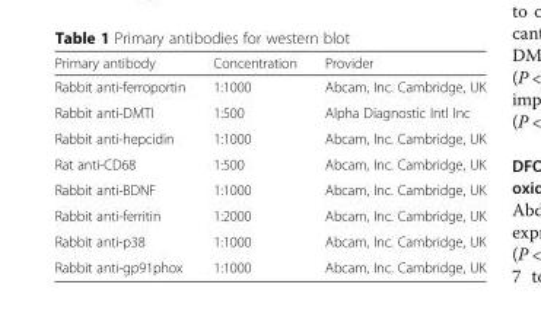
<table><thead><tr><td>Primary antibody</td><td>Concentration</td><td>Provider</td></tr></thead><tbody><tr><td>Rabbit anti-ferroportin</td><td>1:1000</td><td>Abcam, Inc. Cambridge, UK</td></tr><tr><td>Rabbit anti-DMTI</td><td>1:500</td><td>Alpha Diagnostic Intl Inc</td></tr><tr><td>Rabbit anti-hepcidin</td><td>1:1000</td><td>Abcam, Inc. Cambridge, UK</td></tr><tr><td>Rat anti-CD68</td><td>1:500</td><td>Abcam, Inc. Cambridge, UK</td></tr><tr><td>Rabbit anti-BDNF</td><td>1:1000</td><td>Abcam, Inc. Cambridge, UK</td></tr><tr><td>Rabbit anti-ferritin</td><td>1:2000</td><td>Abcam, Inc. Cambridge, UK</td></tr><tr><td>Rabbit anti-p38</td><td>1:1000</td><td>Abcam, Inc. Cambridge, UK</td></tr><tr><td>Rabbit anti-gp91phox</td><td>1:1000</td><td>Abcam, Inc. Cambridge, UK</td></tr></tbody></table>